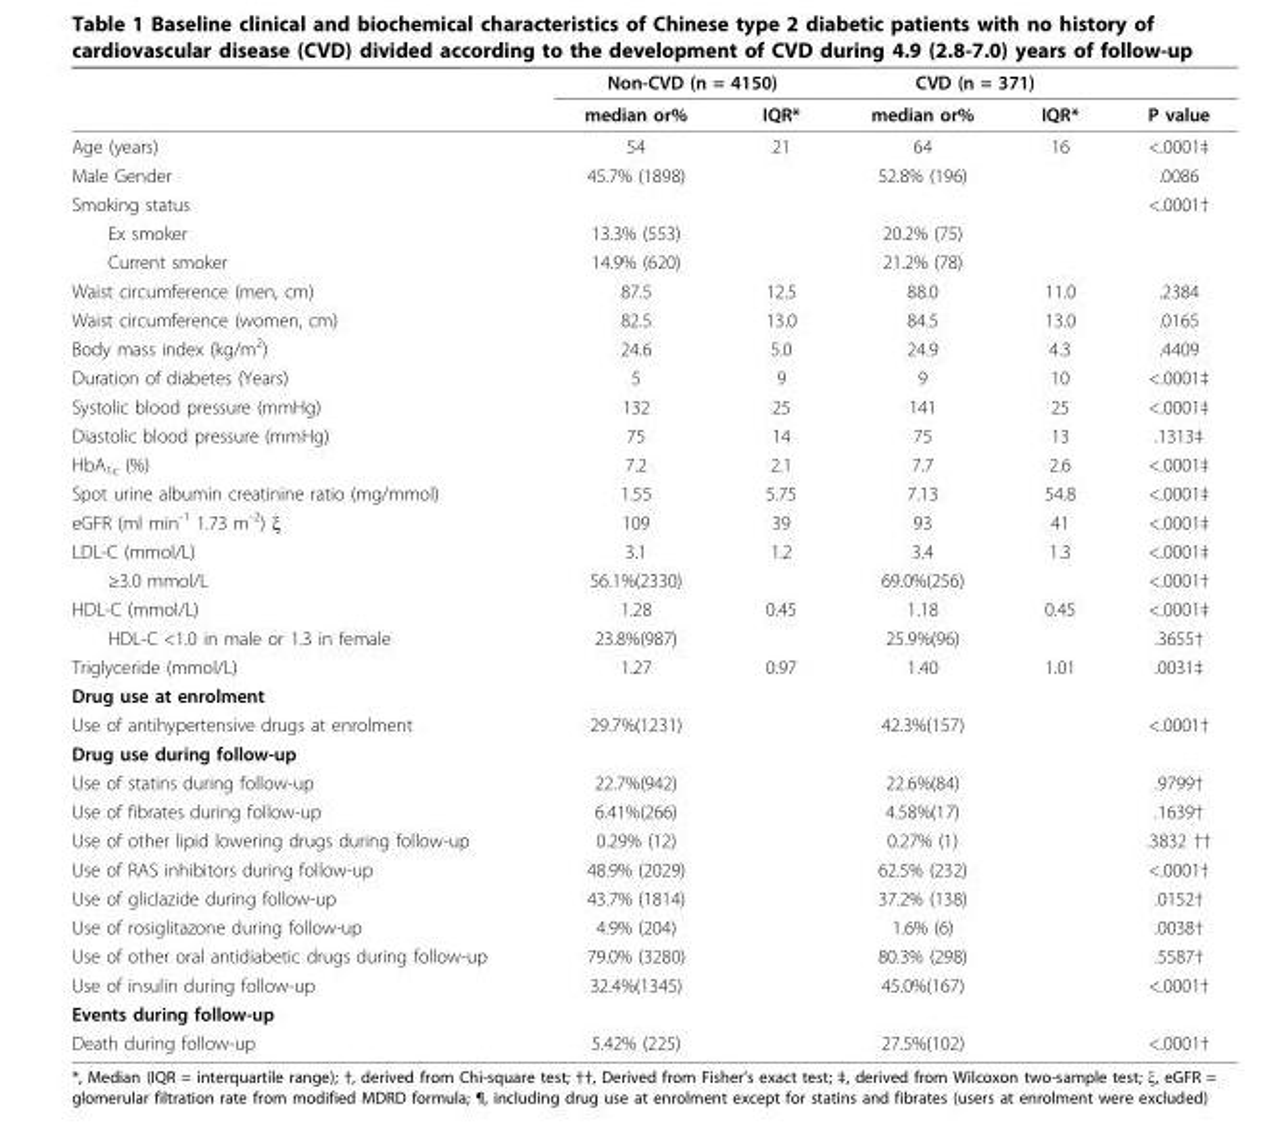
<table><thead><tr><td rowspan="2"></td><td colspan="2">Non-CVD (n = 4150)</td><td colspan="2">CVD (n = 371)</td><td rowspan="2">P value</td></tr><tr><td>median or%</td><td>IQR*</td><td>median or%</td><td>IQR*</td></tr></thead><tbody><tr><td>Age (years)</td><td>54</td><td>21</td><td>64</td><td>16</td><td>&lt;.0001‡</td></tr><tr><td>Male Gender</td><td>45.7% (1898)</td><td></td><td>52.8% (196)</td><td></td><td>.0086</td></tr><tr><td>Smoking status</td><td></td><td></td><td></td><td></td><td>&lt;.0001†</td></tr><tr><td>Ex smoker</td><td>13.3% (553)</td><td></td><td>20.2% (75)</td><td></td><td></td></tr><tr><td>Current smoker</td><td>14.9% (620)</td><td></td><td>21.2% (78)</td><td></td><td></td></tr><tr><td>Waist circumference (men, cm)</td><td>87.5</td><td>12.5</td><td>88.0</td><td>11.0</td><td>.2384</td></tr><tr><td>Waist circumference (women, cm)</td><td>82.5</td><td>13.0</td><td>84.5</td><td>13.0</td><td>.0165</td></tr><tr><td>Body mass index (kg/m<sup>2</sup>)</td><td>24.6</td><td>5.0</td><td>24.9</td><td>4.3</td><td>.4409</td></tr><tr><td>Duration of diabetes (Years)</td><td>5</td><td>9</td><td>9</td><td>10</td><td>&lt;.0001‡</td></tr><tr><td>Systolic blood pressure (mmHg)</td><td>132</td><td>25</td><td>141</td><td>25</td><td>&lt;.0001‡</td></tr><tr><td>Diastolic blood pressure (mmHg)</td><td>75</td><td>14</td><td>75</td><td>13</td><td>.1313‡</td></tr><tr><td>HbA<sub>1c</sub> (%)</td><td>7.2</td><td>2.1</td><td>7.7</td><td>2.6</td><td>&lt;.0001‡</td></tr><tr><td>Spot urine albumin creatinine ratio (mg/mmol)</td><td>1.55</td><td>5.75</td><td>7.13</td><td>54.8</td><td>&lt;.0001‡</td></tr><tr><td>eGFR (ml min<sup>-1</sup> 1.73 m<sup>-2</sup>) ξ</td><td>109</td><td>39</td><td>93</td><td>41</td><td>&lt;.0001‡</td></tr><tr><td>LDL-C (mmol/L)</td><td>3.1</td><td>1.2</td><td>3.4</td><td>1.3</td><td>&lt;.0001‡</td></tr><tr><td>≥3.0 mmol/L</td><td>56.1%(2330)</td><td></td><td>69.0%(256)</td><td></td><td>&lt;.0001†</td></tr><tr><td>HDL-C (mmol/L)</td><td>1.28</td><td>0.45</td><td>1.18</td><td>0.45</td><td>&lt;.0001‡</td></tr><tr><td>HDL-C &lt;1.0 in male or 1.3 in female</td><td>23.8%(987)</td><td></td><td>25.9%(96)</td><td></td><td>.3655†</td></tr><tr><td>Triglyceride (mmol/L)</td><td>1.27</td><td>0.97</td><td>1.40</td><td>1.01</td><td>.0031‡</td></tr><tr><td colspan="6">Drug use at enrolment</td></tr><tr><td>Use of antihypertensive drugs at enrolment</td><td>29.7%(1231)</td><td></td><td>42.3%(157)</td><td></td><td>&lt;.0001†</td></tr><tr><td colspan="6">Drug use during follow-up</td></tr><tr><td>Use of statins during follow-up</td><td>22.7%(942)</td><td></td><td>22.6%(84)</td><td></td><td>.9799†</td></tr><tr><td>Use of fibrates during follow-up</td><td>6.41%(266)</td><td></td><td>4.58%(17)</td><td></td><td>.1639†</td></tr><tr><td>Use of other lipid lowering drugs during follow-up</td><td>0.29% (12)</td><td></td><td>0.27% (1)</td><td></td><td>.3832 ††</td></tr><tr><td>Use of RAS inhibitors during follow-up</td><td>48.9% (2029)</td><td></td><td>62.5% (232)</td><td></td><td>&lt;.0001†</td></tr><tr><td>Use of gliclazide during follow-up</td><td>43.7% (1814)</td><td></td><td>37.2% (138)</td><td></td><td>.0152†</td></tr><tr><td>Use of rosiglitazone during follow-up</td><td>4.9% (204)</td><td></td><td>1.6% (6)</td><td></td><td>.0038†</td></tr><tr><td>Use of other oral antidiabetic drugs during follow-up</td><td>79.0% (3280)</td><td></td><td>80.3% (298)</td><td></td><td>.5587†</td></tr><tr><td>Use of insulin during follow-up</td><td>32.4%(1345)</td><td></td><td>45.0%(167)</td><td></td><td>&lt;.0001†</td></tr><tr><td colspan="6">Events during follow-up</td></tr><tr><td>Death during follow-up</td><td>5.42% (225)</td><td></td><td>27.5%(102)</td><td></td><td>&lt;.0001†</td></tr></tbody></table>